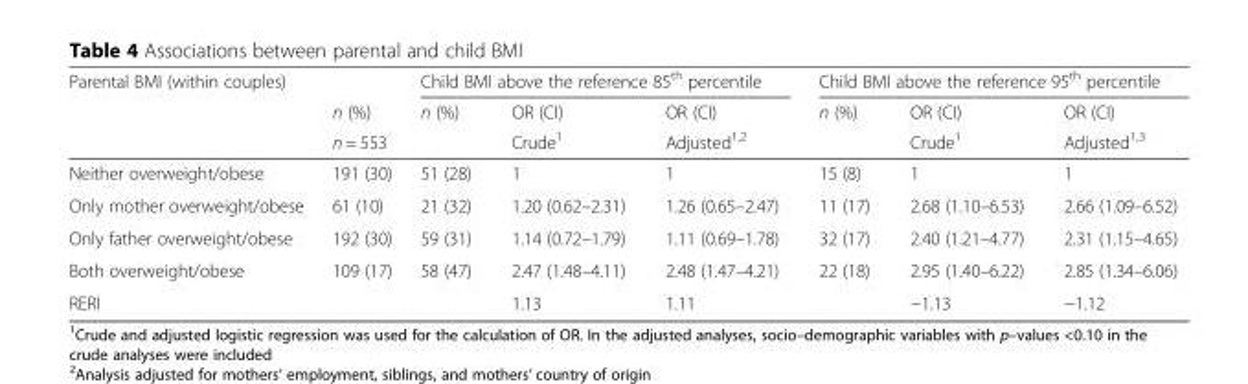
<table><thead><tr><td rowspan="3">Parental BMI (within couples)</td><td rowspan="3">n (%) n = 553</td><td colspan="3">Child BMI above the reference 85<sup>th</sup> percentile</td><td colspan="3">Child BMI above the reference 95<sup>th</sup> percentile</td></tr><tr><td rowspan="2">n (%)</td><td rowspan="2">OR (CI) Crude<sup>1</sup></td><td rowspan="2">OR (CI) Adjusted<sup>1,2</sup></td><td rowspan="2">n (%)</td><td rowspan="2">OR (CI) Crude<sup>1</sup></td><td rowspan="2">OR (CI) Adjusted<sup>1,3</sup></td></tr><tr></tr></thead><tbody><tr><td>Neither overweight/obese</td><td>191 (30)</td><td>51 (28)</td><td>1</td><td>1</td><td>15 (8)</td><td>1</td><td>1</td></tr><tr><td>Only mother overweight/obese</td><td>61 (10)</td><td>21 (32)</td><td>1.20 (0.62–2.31)</td><td>1.26 (0.65–2.47)</td><td>11 (17)</td><td>2.68 (1.10–6.53)</td><td>2.66 (1.09–6.52)</td></tr><tr><td>Only father overweight/obese</td><td>192 (30)</td><td>59 (31)</td><td>1.14 (0.72–1.79)</td><td>1.11 (0.69–1.78)</td><td>32 (17)</td><td>2.40 (1.21–4.77)</td><td>2.31 (1.15–4.65)</td></tr><tr><td>Both overweight/obese</td><td>109 (17)</td><td>58 (47)</td><td>2.47 (1.48–4.11)</td><td>2.48 (1.47–4.21)</td><td>22 (18)</td><td>2.95 (1.40–6.22)</td><td>2.85 (1.34–6.06)</td></tr><tr><td>RERI</td><td></td><td></td><td>1.13</td><td>1.11</td><td></td><td>−1.13</td><td>−1.12</td></tr></tbody></table>